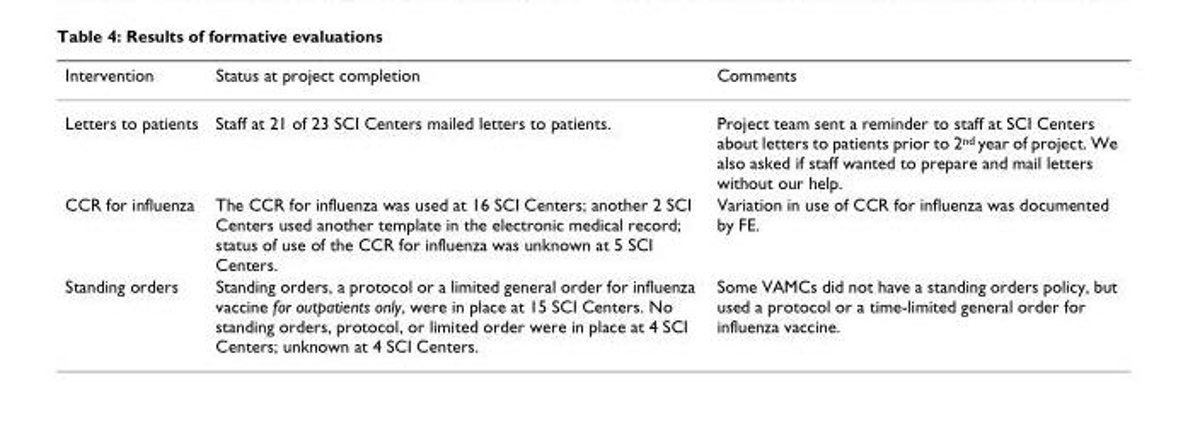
<table><thead><tr><td>Intervention</td><td>Status at project completion</td><td>Comments</td></tr></thead><tbody><tr><td>Letters to patients</td><td>Staff at 21 of 23 SCI Centers mailed letters to patients.</td><td>Project team sent a reminder to staff at SCI Centers about letters to patients prior to 2<sup>nd</sup> year of project. We also asked if staff wanted to prepare and mail letters without our help.</td></tr><tr><td>CCR for influenza</td><td>The CCR for influenza was used at 16 SCI Centers; another 2 SCI Centers used another template in the electronic medical record; status of use of the CCR for influenza was unknown at 5 SCI Centers.</td><td>Variation in use of CCR for influenza was documented by FE.</td></tr><tr><td>Standing orders</td><td>Standing orders, a protocol or a limited general order for influenza vaccine for outpatients only, were in place at 15 SCI Centers. No standing orders, protocol, or limited order were in place at 4 SCI Centers; unknown at 4 SCI Centers.</td><td>Some VAMCs did not have a standing orders policy, but used a protocol or a time-limited general order for influenza vaccine.</td></tr></tbody></table>